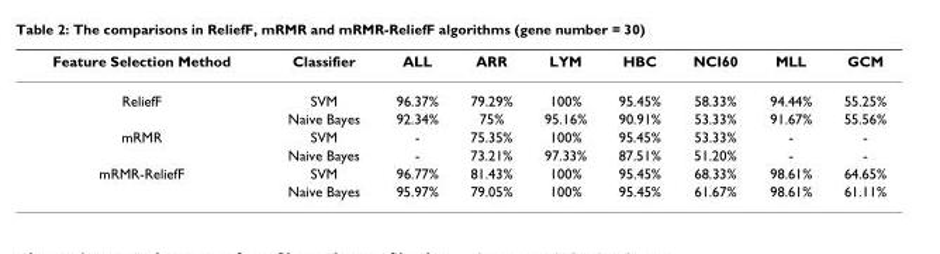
<table><thead><tr><td>Feature Selection Method</td><td>Classifier</td><td>ALL</td><td>ARR</td><td>LYM</td><td>HBC</td><td>NCI60</td><td>MLL</td><td>GCM</td></tr></thead><tbody><tr><td rowspan="2">ReliefF</td><td>SVM</td><td>96.37%</td><td>79.29%</td><td>100%</td><td>95.45%</td><td>58.33%</td><td>94.44%</td><td>55.25%</td></tr><tr><td>Naive Bayes</td><td>92.34%</td><td>75%</td><td>95.16%</td><td>90.91%</td><td>53.33%</td><td>91.67%</td><td>55.56%</td></tr><tr><td rowspan="2">mRMR</td><td>SVM</td><td>-</td><td>75.35%</td><td>100%</td><td>95.45%</td><td>53.33%</td><td>-</td><td>-</td></tr><tr><td>Naive Bayes</td><td>-</td><td>73.21%</td><td>97.33%</td><td>87.51%</td><td>51.20%</td><td>-</td><td>-</td></tr><tr><td rowspan="2">mRMR-ReliefF</td><td>SVM</td><td>96.77%</td><td>81.43%</td><td>100%</td><td>95.45%</td><td>68.33%</td><td>98.61%</td><td>64.65%</td></tr><tr><td>Naive Bayes</td><td>95.97%</td><td>79.05%</td><td>100%</td><td>95.45%</td><td>61.67%</td><td>98.61%</td><td>61.11%</td></tr></tbody></table>